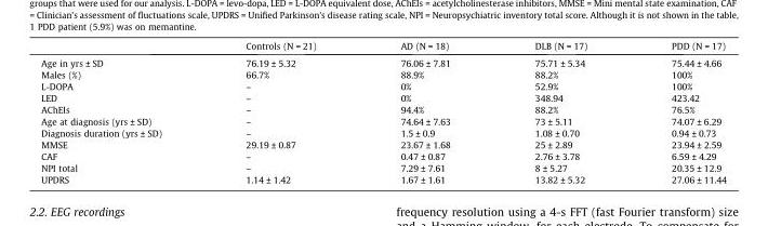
<table><thead><tr><td></td><td>Controls (N = 21)</td><td>AD (N = 18)</td><td>DLB (N = 17)</td><td>PDD (N = 17)</td></tr></thead><tbody><tr><td>Age in yrs ± SD</td><td>76.19 ± 5.32</td><td>76.06 ± 7.81</td><td>75.71 ± 5.34</td><td>75.44 ± 4.66</td></tr><tr><td>Males (%)</td><td>66.7%</td><td>88.9%</td><td>88.2%</td><td>100%</td></tr><tr><td>L-DOPA</td><td>–</td><td>0%</td><td>52.9%</td><td>100%</td></tr><tr><td>LED</td><td>–</td><td>0%</td><td>348.94</td><td>423.42</td></tr><tr><td>AChEIs</td><td>–</td><td>94.4%</td><td>88.2%</td><td>76.5%</td></tr><tr><td>Age at diagnosis (yrs ± SD)</td><td>–</td><td>74.64 ± 7.63</td><td>73 ± 5.11</td><td>74.07 ± 6.29</td></tr><tr><td>Diagnosis duration (yrs ± SD)</td><td>–</td><td>1.5 ± 0.9</td><td>1.08 ± 0.70</td><td>0.94 ± 0.73</td></tr><tr><td>MMSE</td><td>29.19 ± 0.87</td><td>23.67 ± 1.68</td><td>25 ± 2.89</td><td>23.94 ± 2.59</td></tr><tr><td>CAF</td><td>–</td><td>0.47 ± 0.87</td><td>2.76 ± 3.78</td><td>6.59 ± 4.29</td></tr><tr><td>NPI total</td><td>–</td><td>7.29 ± 7.61</td><td>8 ± 5.27</td><td>20.35 ± 12.9</td></tr><tr><td>UPDRS</td><td>1.14 ± 1.42</td><td>1.67 ± 1.61</td><td>13.82 ± 5.32</td><td>27.06 ± 11.44</td></tr></tbody></table>